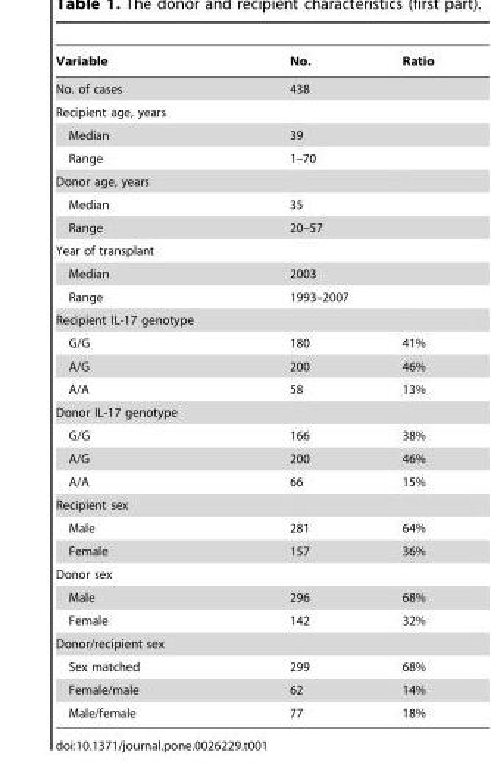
<table><thead><tr><td>Variable</td><td>No.</td><td>Ratio</td></tr></thead><tbody><tr><td>No. of cases</td><td colspan="2">438</td></tr><tr><td colspan="3">Recipient age, years</td></tr><tr><td>Median</td><td colspan="2">39</td></tr><tr><td>Range</td><td colspan="2">1–70</td></tr><tr><td colspan="3">Donor age, years</td></tr><tr><td>Median</td><td colspan="2">35</td></tr><tr><td>Range</td><td colspan="2">20–57</td></tr><tr><td colspan="3">Year of transplant</td></tr><tr><td>Median</td><td colspan="2">2003</td></tr><tr><td>Range</td><td colspan="2">1993–2007</td></tr><tr><td colspan="3">Recipient IL-17 genotype</td></tr><tr><td>G/G</td><td>180</td><td>41%</td></tr><tr><td>A/G</td><td>200</td><td>46%</td></tr><tr><td>A/A</td><td>58</td><td>13%</td></tr><tr><td colspan="3">Donor IL-17 genotype</td></tr><tr><td>G/G</td><td>166</td><td>38%</td></tr><tr><td>A/G</td><td>200</td><td>46%</td></tr><tr><td>A/A</td><td>66</td><td>15%</td></tr><tr><td colspan="3">Recipient sex</td></tr><tr><td>Male</td><td>281</td><td>64%</td></tr><tr><td>Female</td><td>157</td><td>36%</td></tr><tr><td colspan="3">Donor sex</td></tr><tr><td>Male</td><td>296</td><td>68%</td></tr><tr><td>Female</td><td>142</td><td>32%</td></tr><tr><td colspan="3">Donor/recipient sex</td></tr><tr><td>Sex matched</td><td>299</td><td>68%</td></tr><tr><td>Female/male</td><td>62</td><td>14%</td></tr><tr><td>Male/female</td><td>77</td><td>18%</td></tr></tbody></table>